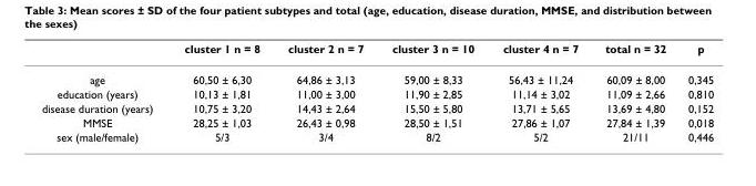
<table><thead><tr><td></td><td>cluster 1 n = 8</td><td>cluster 2 n = 7</td><td>cluster 3 n = 10</td><td>cluster 4 n = 7</td><td>total n = 32</td><td>p</td></tr></thead><tbody><tr><td>age</td><td>60,50 ± 6,30</td><td>64,86 ± 3,13</td><td>59,00 ± 8,33</td><td>56,43 ± 11,24</td><td>60,09 ± 8,00</td><td>0,345</td></tr><tr><td>education (years)</td><td>10,13 ± 1,81</td><td>11,00 ± 3,00</td><td>11,90 ± 2,85</td><td>11,14 ± 3,02</td><td>11,09 ± 2,66</td><td>0,810</td></tr><tr><td>disease duration (years)</td><td>10,75 ± 3,20</td><td>14,43 ± 2,64</td><td>15,50 ± 5,80</td><td>13,71 ± 5,65</td><td>13,69 ± 4,80</td><td>0,152</td></tr><tr><td>MMSE</td><td>28,25 ± 1,03</td><td>26,43 ± 0,98</td><td>28,50 ± 1,51</td><td>27,86 ± 1,07</td><td>27,84 ± 1,39</td><td>0,018</td></tr><tr><td>sex (male/female)</td><td>5/3</td><td>3/4</td><td>8/2</td><td>5/2</td><td>21/11</td><td>0,446</td></tr></tbody></table>